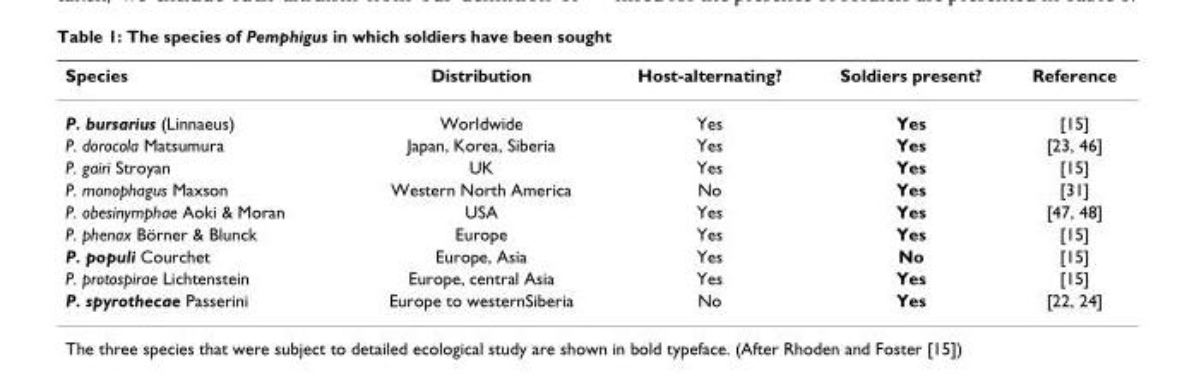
<table><thead><tr><td>Species</td><td>Distribution</td><td>Host-alternating?</td><td>Soldiers present?</td><td>Reference</td></tr></thead><tbody><tr><td>P. bursarius (Linnaeus)</td><td>Worldwide</td><td>Yes</td><td>Yes</td><td>[15]</td></tr><tr><td>P. dorocola Matsumura</td><td>Japan, Korea, Siberia</td><td>Yes</td><td>Yes</td><td>[23, 46]</td></tr><tr><td>P. gairi Stroyan</td><td>UK</td><td>Yes</td><td>Yes</td><td>[15]</td></tr><tr><td>P. monophagus Maxson</td><td>Western North America</td><td>No</td><td>Yes</td><td>[31]</td></tr><tr><td>P. obesinymphae Aoki &amp; Moran</td><td>USA</td><td>Yes</td><td>Yes</td><td>[47, 48]</td></tr><tr><td>P. phenax Börner &amp; Blunck</td><td>Europe</td><td>Yes</td><td>Yes</td><td>[15]</td></tr><tr><td>P. populi Courchet</td><td>Europe, Asia</td><td>Yes</td><td>No</td><td>[15]</td></tr><tr><td>P. protospirae Lichtenstein</td><td>Europe, central Asia</td><td>Yes</td><td>Yes</td><td>[15]</td></tr><tr><td>P. spyrothecae Passerini</td><td>Europe to westernSiberia</td><td>No</td><td>Yes</td><td>[22, 24]</td></tr></tbody></table>